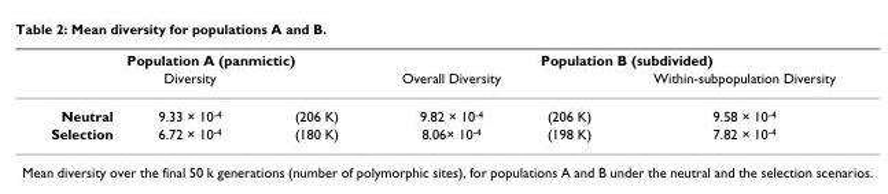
<table><thead><tr><td rowspan="2"></td><td colspan="2">Population A (panmictic)</td><td colspan="3">Population B (subdivided)</td></tr><tr><td>Diversity</td><td></td><td>Overall Diversity</td><td></td><td>Within-subpopulation Diversity</td></tr></thead><tbody><tr><td>Neutral</td><td>9.33 × 10<sup>-4</sup></td><td>(206 K)</td><td>9.82 × 10<sup>-4</sup></td><td>(206 K)</td><td>9.58 × 10<sup>-4</sup></td></tr><tr><td>Selection</td><td>6.72 × 10<sup>-4</sup></td><td>(180 K)</td><td>8.06× 10<sup>-4</sup></td><td>(198 K)</td><td>7.82 × 10<sup>-4</sup></td></tr></tbody></table>